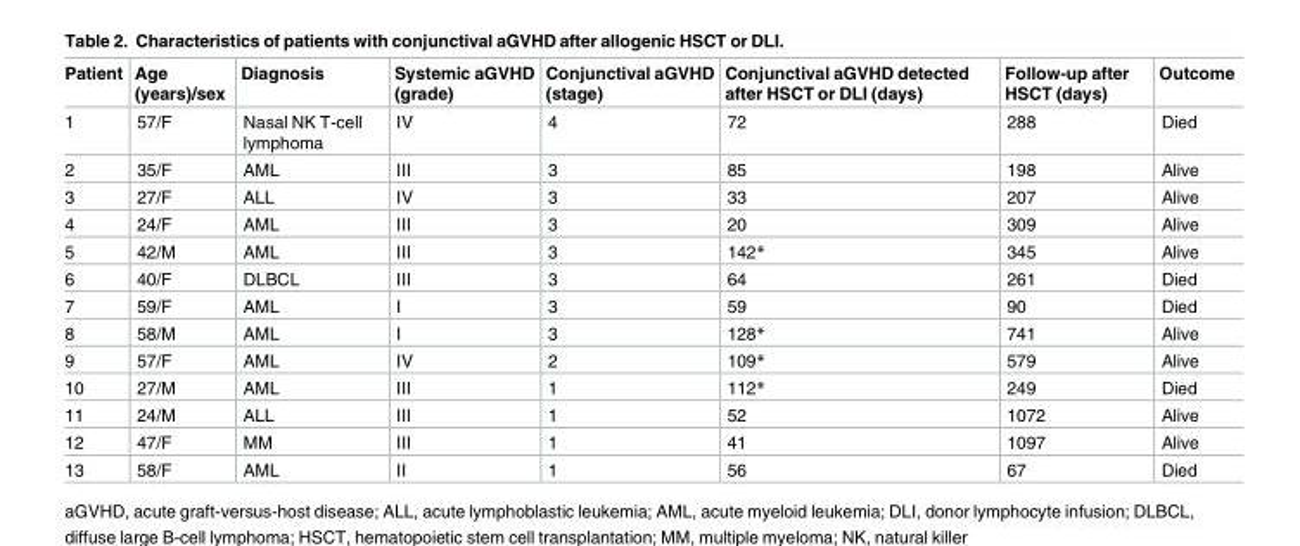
<table><thead><tr><td>Patient</td><td>Age (years)/sex</td><td>Diagnosis</td><td>Systemic aGVHD (grade)</td><td>Conjunctival aGVHD (stage)</td><td>Conjunctival aGVHD detected after HSCT or DLI (days)</td><td>Follow-up after HSCT (days)</td><td>Outcome</td></tr></thead><tbody><tr><td>1</td><td>57/F</td><td>Nasal NK T-cell lymphoma</td><td>IV</td><td>4</td><td>72</td><td>288</td><td>Died</td></tr><tr><td>2</td><td>35/F</td><td>AML</td><td>III</td><td>3</td><td>85</td><td>198</td><td>Alive</td></tr><tr><td>3</td><td>27/F</td><td>ALL</td><td>IV</td><td>3</td><td>33</td><td>207</td><td>Alive</td></tr><tr><td>4</td><td>24/F</td><td>AML</td><td>III</td><td>3</td><td>20</td><td>309</td><td>Alive</td></tr><tr><td>5</td><td>42/M</td><td>AML</td><td>III</td><td>3</td><td>142*</td><td>345</td><td>Alive</td></tr><tr><td>6</td><td>40/F</td><td>DLBCL</td><td>III</td><td>3</td><td>64</td><td>261</td><td>Died</td></tr><tr><td>7</td><td>59/F</td><td>AML</td><td>I</td><td>3</td><td>59</td><td>90</td><td>Died</td></tr><tr><td>8</td><td>58/M</td><td>AML</td><td>I</td><td>3</td><td>128*</td><td>741</td><td>Alive</td></tr><tr><td>9</td><td>57/F</td><td>AML</td><td>IV</td><td>2</td><td>109*</td><td>579</td><td>Alive</td></tr><tr><td>10</td><td>27/M</td><td>AML</td><td>III</td><td>1</td><td>112*</td><td>249</td><td>Died</td></tr><tr><td>11</td><td>24/M</td><td>ALL</td><td>III</td><td>1</td><td>52</td><td>1072</td><td>Alive</td></tr><tr><td>12</td><td>47/F</td><td>MM</td><td>III</td><td>1</td><td>41</td><td>1097</td><td>Alive</td></tr><tr><td>13</td><td>58/F</td><td>AML</td><td>II</td><td>1</td><td>56</td><td>67</td><td>Died</td></tr></tbody></table>